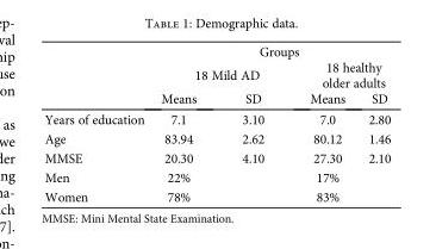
<table><thead><tr><td rowspan="3"></td><td colspan="4">Groups</td></tr><tr><td colspan="2">18 Mild AD</td><td colspan="2">18 healthy older adults</td></tr><tr><td>Means</td><td>SD</td><td>Means</td><td>SD</td></tr></thead><tbody><tr><td>Years of education</td><td>7.1</td><td>3.10</td><td>7.0</td><td>2.80</td></tr><tr><td>Age</td><td>83.94</td><td>2.62</td><td>80.12</td><td>1.46</td></tr><tr><td>MMSE</td><td>20.30</td><td>4.10</td><td>27.30</td><td>2.10</td></tr><tr><td>Men</td><td>22%</td><td></td><td>17%</td><td></td></tr><tr><td>Women</td><td>78%</td><td></td><td>83%</td><td></td></tr></tbody></table>